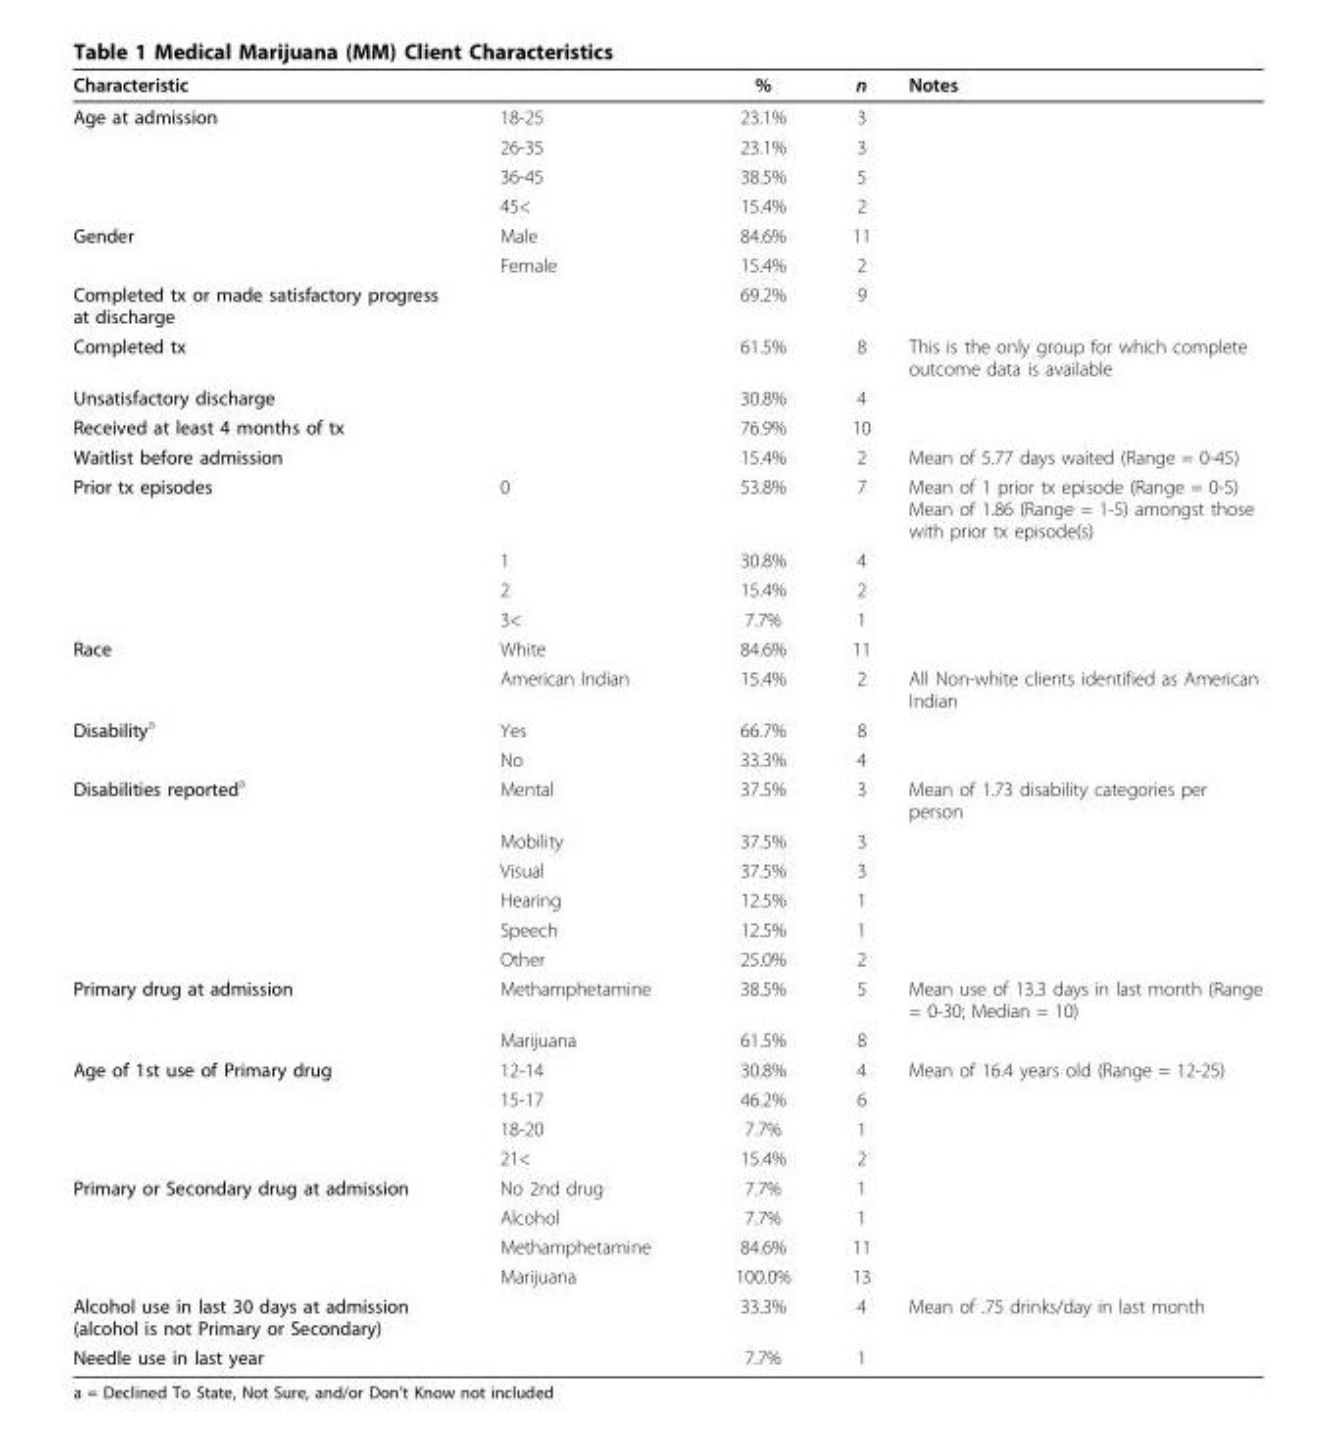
<table><thead><tr><td>Characteristic</td><td></td><td>%</td><td>n</td><td>Notes</td></tr></thead><tbody><tr><td rowspan="4">Age at admission</td><td>18-25</td><td>23.1%</td><td>3</td><td></td></tr><tr><td>26-35</td><td>23.1%</td><td>3</td><td></td></tr><tr><td>36-45</td><td>38.5%</td><td>5</td><td></td></tr><tr><td>45&lt;</td><td>15.4%</td><td>2</td><td></td></tr><tr><td rowspan="2">Gender</td><td>Male</td><td>84.6%</td><td>11</td><td></td></tr><tr><td>Female</td><td>15.4%</td><td>2</td><td></td></tr><tr><td>Completed tx or made satisfactory progress at discharge</td><td></td><td>69.2%</td><td>9</td><td></td></tr><tr><td>Completed tx</td><td></td><td>61.5%</td><td>8</td><td>This is the only group for which complete outcome data is available</td></tr><tr><td>Unsatisfactory discharge</td><td></td><td>30.8%</td><td>4</td><td></td></tr><tr><td>Received at least 4 months of tx</td><td></td><td>76.9%</td><td>10</td><td></td></tr><tr><td>Waitlist before admission</td><td></td><td>15.4%</td><td>2</td><td>Mean of 5.77 days waited (Range = 0-45)</td></tr><tr><td rowspan="4">Prior tx episodes</td><td>0</td><td>53.8%</td><td>7</td><td>Mean of 1 prior tx episode (Range = 0-5) Mean of 1.86 (Range = 1-5) amongst those with prior tx episode(s)</td></tr><tr><td>1</td><td>30.8%</td><td>4</td><td></td></tr><tr><td>2</td><td>15.4%</td><td>2</td><td></td></tr><tr><td>3&lt;</td><td>7.7%</td><td>1</td><td></td></tr><tr><td rowspan="2">Race</td><td>White</td><td>84.6%</td><td>11</td><td></td></tr><tr><td>American Indian</td><td>15.4%</td><td>2</td><td>All Non-white clients identified as American Indian</td></tr><tr><td rowspan="2">Disability<sup>a</sup></td><td>Yes</td><td>66.7%</td><td>8</td><td></td></tr><tr><td>No</td><td>33.3%</td><td>4</td><td></td></tr><tr><td rowspan="6">Disabilities reported<sup>a</sup></td><td>Mental</td><td>37.5%</td><td>3</td><td>Mean of 1.73 disability categories per person</td></tr><tr><td>Mobility</td><td>37.5%</td><td>3</td><td></td></tr><tr><td>Visual</td><td>37.5%</td><td>3</td><td></td></tr><tr><td>Hearing</td><td>12.5%</td><td>1</td><td></td></tr><tr><td>Speech</td><td>12.5%</td><td>1</td><td></td></tr><tr><td>Other</td><td>25.0%</td><td>2</td><td></td></tr><tr><td rowspan="2">Primary drug at admission</td><td>Methamphetamine</td><td>38.5%</td><td>5</td><td>Mean use of 13.3 days in last month (Range = 0-30; Median = 10)</td></tr><tr><td>Marijuana</td><td>61.5%</td><td>8</td><td></td></tr><tr><td rowspan="4">Age of 1st use of Primary drug</td><td>12-14</td><td>30.8%</td><td>4</td><td>Mean of 16.4 years old (Range = 12-25)</td></tr><tr><td>15-17</td><td>46.2%</td><td>6</td><td></td></tr><tr><td>18-20</td><td>7.7%</td><td>1</td><td></td></tr><tr><td>21&lt;</td><td>15.4%</td><td>2</td><td></td></tr><tr><td rowspan="4">Primary or Secondary drug at admission</td><td>No 2nd drug</td><td>7.7%</td><td>1</td><td></td></tr><tr><td>Alcohol</td><td>7.7%</td><td>1</td><td></td></tr><tr><td>Methamphetamine</td><td>84.6%</td><td>11</td><td></td></tr><tr><td>Marijuana</td><td>100.0%</td><td>13</td><td></td></tr><tr><td>Alcohol use in last 30 days at admission (alcohol is not Primary or Secondary)</td><td></td><td>33.3%</td><td>4</td><td>Mean of .75 drinks/day in last month</td></tr><tr><td>Needle use in last year</td><td></td><td>7.7%</td><td>1</td><td></td></tr></tbody></table>